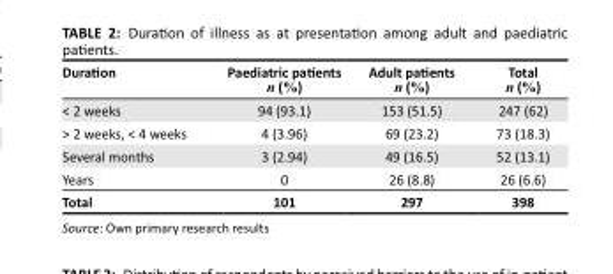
<table><thead><tr><td>Duration</td><td>Paediatric patients n (%)</td><td>Adult patients n (%)</td><td>Total n (%)</td></tr></thead><tbody><tr><td>&lt; 2 weeks</td><td>94 (93.1)</td><td>153 (51.5)</td><td>247 (62)</td></tr><tr><td>&gt; 2 weeks, &lt; 4 weeks</td><td>4 (3.96)</td><td>69 (23.2)</td><td>73 (18.3)</td></tr><tr><td>Several months</td><td>3 (2.94)</td><td>49 (16.5)</td><td>52 (13.1)</td></tr><tr><td>Years</td><td>0</td><td>26 (8.8)</td><td>26 (6.6)</td></tr><tr><td>Total</td><td>101</td><td>297</td><td>398</td></tr></tbody></table>